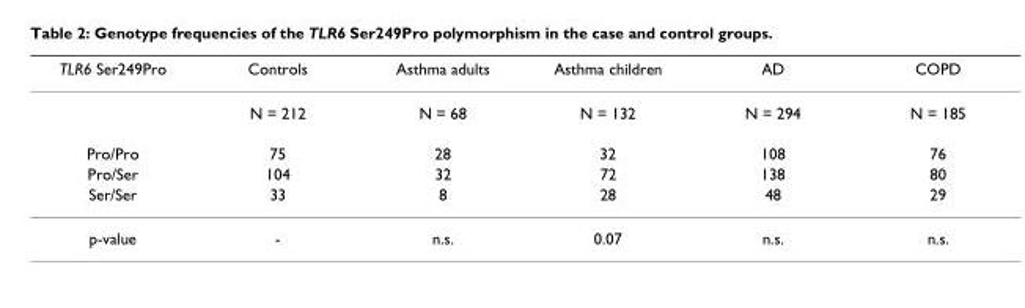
<table><thead><tr><td>TLR6 Ser249Pro</td><td>Controls</td><td>Asthma adults</td><td>Asthma children</td><td>AD</td><td>COPD</td></tr></thead><tbody><tr><td></td><td>N = 212</td><td>N = 68</td><td>N = 132</td><td>N = 294</td><td>N = 185</td></tr><tr><td>Pro/Pro</td><td>75</td><td>28</td><td>32</td><td>108</td><td>76</td></tr><tr><td>Pro/Ser</td><td>104</td><td>32</td><td>72</td><td>138</td><td>80</td></tr><tr><td>Ser/Ser</td><td>33</td><td>8</td><td>28</td><td>48</td><td>29</td></tr><tr><td>p-value</td><td>-</td><td>n.s.</td><td>0.07</td><td>n.s.</td><td>n.s.</td></tr></tbody></table>